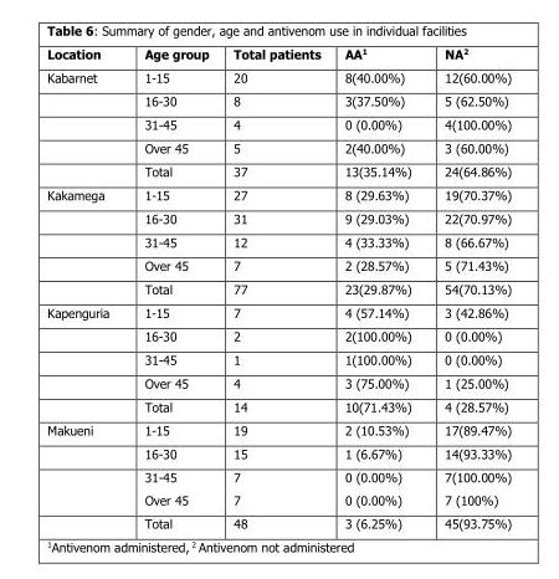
<table><thead><tr><td>Location</td><td>Age group</td><td>Total patients</td><td>AA<sup>1</sup></td><td>NA<sup>2</sup></td></tr></thead><tbody><tr><td rowspan="5">Kabarnet</td><td>1-15</td><td>20</td><td>8(40.00%)</td><td>12(60.00%)</td></tr><tr><td>16-30</td><td>8</td><td>3(37.50%)</td><td>5 (62.50%)</td></tr><tr><td>31-45</td><td>4</td><td>0 (0.00%)</td><td>4(100.00%)</td></tr><tr><td>Over 45</td><td>5</td><td>2(40.00%)</td><td>3 (60.00%)</td></tr><tr><td>Total</td><td>37</td><td>13(35.14%)</td><td>24(64.86%)</td></tr><tr><td rowspan="5">Kakamega</td><td>1-15</td><td>27</td><td>8 (29.63%)</td><td>19(70.37%)</td></tr><tr><td>16-30</td><td>31</td><td>9 (29.03%)</td><td>22(70.97%)</td></tr><tr><td>31-45</td><td>12</td><td>4 (33.33%)</td><td>8 (66.67%)</td></tr><tr><td>Over 45</td><td>7</td><td>2 (28.57%)</td><td>5 (71.43%)</td></tr><tr><td>Total</td><td>77</td><td>23(29.87%)</td><td>54(70.13%)</td></tr><tr><td rowspan="5">Kapenguria</td><td>1-15</td><td>7</td><td>4 (57.14%)</td><td>3 (42.86%)</td></tr><tr><td>16-30</td><td>2</td><td>2(100.00%)</td><td>0 (0.00%)</td></tr><tr><td>31-45</td><td>1</td><td>1(100.00%)</td><td>0 (0.00%)</td></tr><tr><td>Over 45</td><td>4</td><td>3 (75.00%)</td><td>1 (25.00%)</td></tr><tr><td>Total</td><td>14</td><td>10(71.43%)</td><td>4 (28.57%)</td></tr><tr><td rowspan="4">Makueni</td><td>1-15</td><td>19</td><td>2 (10.53%)</td><td>17(89.47%)</td></tr><tr><td>16-30</td><td>15</td><td>1 (6.67%)</td><td>14(93.33%)</td></tr><tr><td>31-45 Over 45</td><td>7 7</td><td>0 (0.00%) 0 (0.00%)</td><td>7(100.00%) 7 (100%)</td></tr><tr><td>Total</td><td>48</td><td>3 (6.25%)</td><td>45(93.75%)</td></tr></tbody></table>